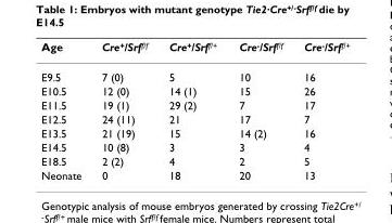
<table><thead><tr><td>Age</td><td>Cre<sup>+</sup>/Srf<sup>f/f</sup></td><td>Cre<sup>+</sup>/Srf<sup>f/+</sup></td><td>Cre<sup>-</sup>/Srf<sup>f/f</sup></td><td>Cre<sup>-</sup>/Srf<sup>f/+</sup></td></tr></thead><tbody><tr><td>E9.5</td><td>7 (0)</td><td>5</td><td>10</td><td>16</td></tr><tr><td>E10.5</td><td>12 (0)</td><td>14 (1)</td><td>15</td><td>26</td></tr><tr><td>E11.5</td><td>19 (1)</td><td>29 (2)</td><td>7</td><td>17</td></tr><tr><td>E12.5</td><td>24 (11)</td><td>21</td><td>17</td><td>7</td></tr><tr><td>E13.5</td><td>21 (19)</td><td>15</td><td>14 (2)</td><td>16</td></tr><tr><td>E14.5</td><td>10 (8)</td><td>3</td><td>3</td><td>4</td></tr><tr><td>E18.5</td><td>2 (2)</td><td>4</td><td>2</td><td>5</td></tr><tr><td>Neonate</td><td>0</td><td>18</td><td>20</td><td>13</td></tr></tbody></table>